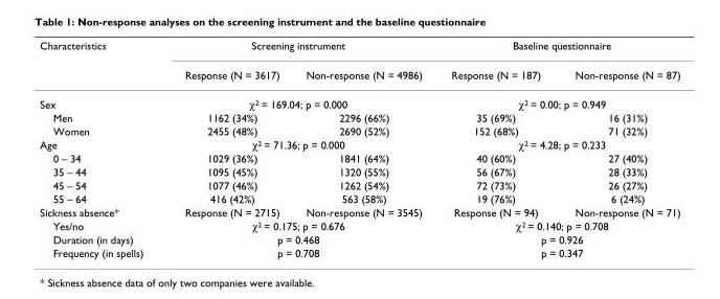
<table><thead><tr><td rowspan="2">Characteristics</td><td colspan="2">Screening instrument</td><td colspan="2">Baseline questionnaire</td></tr><tr><td>Response (N = 3617)</td><td>Non-response (N = 4986)</td><td>Response (N = 187)</td><td>Non-response (N = 87)</td></tr></thead><tbody><tr><td>Sex</td><td colspan="2">χ<sup>2</sup> = 169.04; p = 0.000</td><td colspan="2">χ<sup>2</sup> = 0.00; p = 0.949</td></tr><tr><td>Men</td><td>1162 (34%)</td><td>2296 (66%)</td><td>35 (69%)</td><td>16 (31%)</td></tr><tr><td>Women</td><td>2455 (48%)</td><td>2690 (52%)</td><td>152 (68%)</td><td>71 (32%)</td></tr><tr><td>Age</td><td colspan="2">χ<sup>2</sup> = 71.36; p = 0.000</td><td colspan="2">χ<sup>2</sup> = 4.28; p = 0.233</td></tr><tr><td>0 – 34</td><td>1029 (36%)</td><td>1841 (64%)</td><td>40 (60%)</td><td>27 (40%)</td></tr><tr><td>35 – 44</td><td>1095 (45%)</td><td>1320 (55%)</td><td>56 (67%)</td><td>28 (33%)</td></tr><tr><td>45 – 54</td><td>1077 (46%)</td><td>1262 (54%)</td><td>72 (73%)</td><td>26 (27%)</td></tr><tr><td>55 – 64</td><td>416 (42%)</td><td>563 (58%)</td><td>19 (76%)</td><td>6 (24%)</td></tr><tr><td>Sickness absence*</td><td>Response (N = 2715)</td><td>Non-response (N = 3545)</td><td>Response (N = 94)</td><td>Non-response (N = 71)</td></tr><tr><td>Yes/no</td><td colspan="2">χ<sup>2</sup> = 0.175; p = 0.676</td><td colspan="2">χ<sup>2</sup> = 0.140; p = 0.708</td></tr><tr><td>Duration (in days)</td><td colspan="2">p = 0.468</td><td colspan="2">p = 0.926</td></tr><tr><td>Frequency (in spells)</td><td colspan="2">p = 0.708</td><td colspan="2">p = 0.347</td></tr></tbody></table>